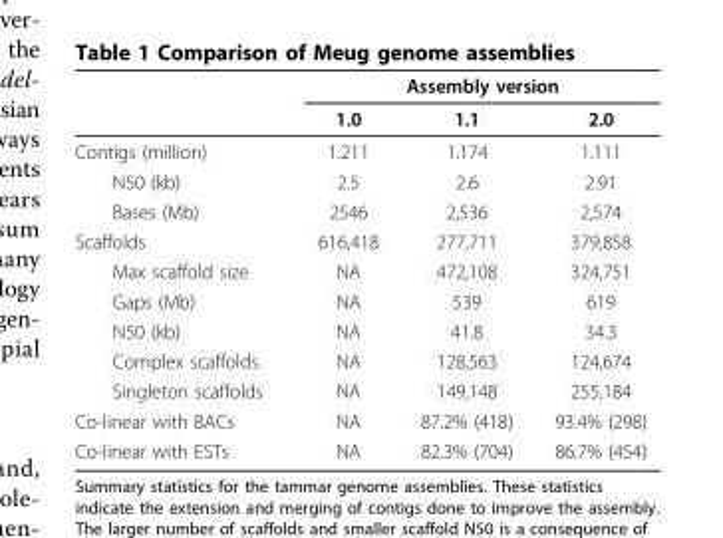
<table><thead><tr><td rowspan="2"></td><td colspan="3">Assembly version</td></tr><tr><td>1.0</td><td>1.1</td><td>2.0</td></tr></thead><tbody><tr><td>Contigs (million)</td><td>1.211</td><td>1.174</td><td>1.111</td></tr><tr><td>N50 (kb)</td><td>2.5</td><td>2.6</td><td>2.91</td></tr><tr><td>Bases (Mb)</td><td>2546</td><td>2,536</td><td>2,574</td></tr><tr><td>Scaffolds</td><td>616,418</td><td>277,711</td><td>379,858</td></tr><tr><td>Max scaffold size</td><td>NA</td><td>472,108</td><td>324,751</td></tr><tr><td>Gaps (Mb)</td><td>NA</td><td>539</td><td>619</td></tr><tr><td>N50 (kb)</td><td>NA</td><td>41.8</td><td>34.3</td></tr><tr><td>Complex scaffolds</td><td>NA</td><td>128,563</td><td>124,674</td></tr><tr><td>Singleton scaffolds</td><td>NA</td><td>149,148</td><td>255,184</td></tr><tr><td>Co-linear with BACs</td><td>NA</td><td>87.2% (418)</td><td>93.4% (298)</td></tr><tr><td>Co-linear with ESTs</td><td>NA</td><td>82.3% (704)</td><td>86.7% (454)</td></tr></tbody></table>